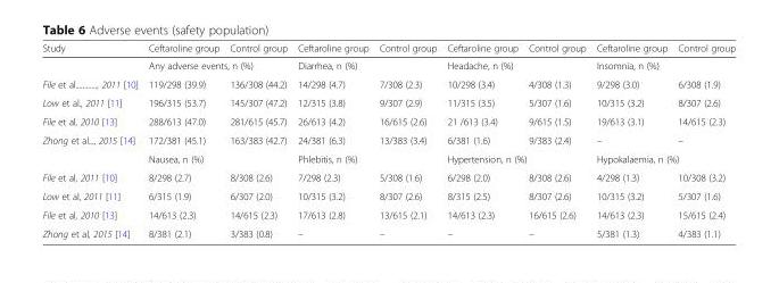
<table><thead><tr><td>Study</td><td>Ceftaroline group</td><td>Control group</td><td>Ceftaroline group</td><td>Control group</td><td>Ceftaroline group</td><td>Control group</td><td>Ceftaroline group</td><td>Control group</td></tr></thead><tbody><tr><td></td><td colspan="2">Any adverse events, n (%)</td><td colspan="2">Diarrhea, n (%)</td><td colspan="2">Headache, n (%)</td><td colspan="2">Insomnia, n (%)</td></tr><tr><td>File et al............, 2011 [10]</td><td>119/298 (39.9)</td><td>136/308 (44.2)</td><td>14/298 (4.7)</td><td>7/308 (2.3)</td><td>10/298 (3.4)</td><td>4/308 (1.3)</td><td>9/298 (3.0)</td><td>6/308 (1.9)</td></tr><tr><td>Low et al., 2011 [11]</td><td>196/315 (53.7)</td><td>145/307 (47.2)</td><td>12/315 (3.8)</td><td>9/307 (2.9)</td><td>11/315 (3.5)</td><td>5/307 (1.6)</td><td>10/315 (3.2)</td><td>8/307 (2.6)</td></tr><tr><td>File et al, 2010 [13]</td><td>288/613 (47.0)</td><td>281/615 (45.7)</td><td>26/613 (4.2)</td><td>16/615 (2.6)</td><td>21 /613 (3.4)</td><td>9/615 (1.5)</td><td>19/613 (3.1)</td><td>14/615 (2.3)</td></tr><tr><td rowspan="2">Zhong et al..., 2015 [14]</td><td>172/381 (45.1)</td><td>163/383 (42.7)</td><td>24/381 (6.3)</td><td>13/383 (3.4)</td><td>6/381 (1.6)</td><td>9/383 (2.4)</td><td>–</td><td>–</td></tr><tr><td colspan="2">Nausea, n (%)</td><td colspan="2">Phlebitis, n (%)</td><td colspan="2">Hypertension, n (%)</td><td colspan="2">Hypokalaemia, n (%)</td></tr><tr><td>File et al, 2011 [10]</td><td>8/298 (2.7)</td><td>8/308 (2.6)</td><td>7/298 (2.3)</td><td>5/308 (1.6)</td><td>6/298 (2.0)</td><td>8/308 (2.6)</td><td>4/298 (1.3)</td><td>10/308 (3.2)</td></tr><tr><td>Low et al, 2011 [11]</td><td>6/315 (1.9)</td><td>6/307 (2.0)</td><td>10/315 (3.2)</td><td>8/307 (2.6)</td><td>8/315 (2.5)</td><td>8/307 (2.6)</td><td>10/315 (3.2)</td><td>5/307 (1.6)</td></tr><tr><td>File et al, 2010 [13]</td><td>14/613 (2.3)</td><td>14/615 (2.3)</td><td>17/613 (2.8)</td><td>13/615 (2.1)</td><td>14/613 (2.3)</td><td>16/615 (2.6)</td><td>14/613 (2.3)</td><td>15/615 (2.4)</td></tr><tr><td>Zhong et al, 2015 [14]</td><td>8/381 (2.1)</td><td>3/383 (0.8)</td><td>–</td><td>–</td><td>–</td><td>–</td><td>5/381 (1.3)</td><td>4/383 (1.1)</td></tr></tbody></table>